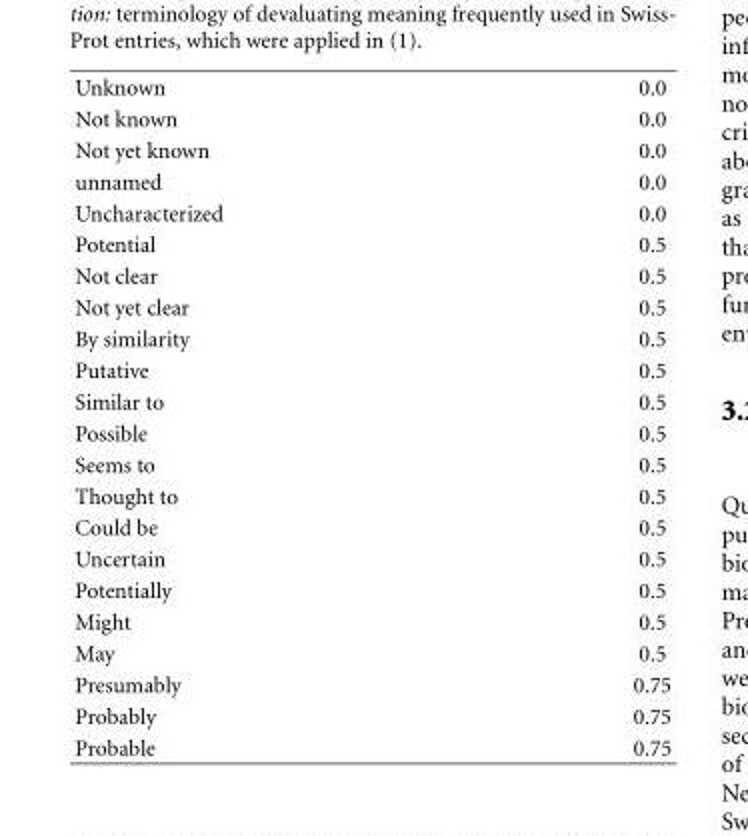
<table><tbody><tr><td>Unknown</td><td>0.0</td></tr><tr><td>Not known</td><td>0.0</td></tr><tr><td>Not yet known</td><td>0.0</td></tr><tr><td>unnamed</td><td>0.0</td></tr><tr><td>Uncharacterized</td><td>0.0</td></tr><tr><td>Potential</td><td>0.5</td></tr><tr><td>Not clear</td><td>0.5</td></tr><tr><td>Not yet clear</td><td>0.5</td></tr><tr><td>By similarity</td><td>0.5</td></tr><tr><td>Putative</td><td>0.5</td></tr><tr><td>Similar to</td><td>0.5</td></tr><tr><td>Possible</td><td>0.5</td></tr><tr><td>Seems to</td><td>0.5</td></tr><tr><td>Thought to</td><td>0.5</td></tr><tr><td>Could be</td><td>0.5</td></tr><tr><td>Uncertain</td><td>0.5</td></tr><tr><td>Potentially</td><td>0.5</td></tr><tr><td>Might</td><td>0.5</td></tr><tr><td>May</td><td>0.5</td></tr><tr><td>Presumably</td><td>0.75</td></tr><tr><td>Probably</td><td>0.75</td></tr><tr><td>Probable</td><td>0.75</td></tr></tbody></table>